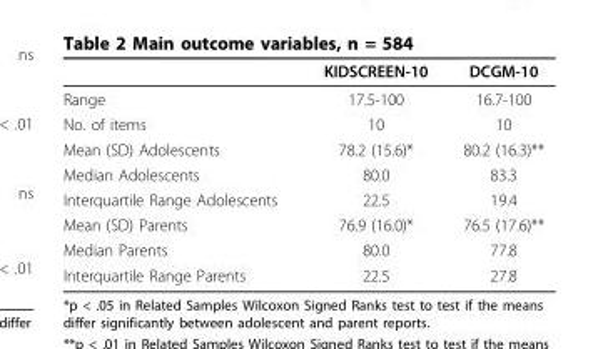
<table><thead><tr><td></td><td>KIDSCREEN-10</td><td>DCGM-10</td></tr></thead><tbody><tr><td>Range</td><td>17.5-100</td><td>16.7-100</td></tr><tr><td>No. of items</td><td>10</td><td>10</td></tr><tr><td>Mean (SD) Adolescents</td><td>78.2 (15.6)*</td><td>80.2 (16.3)**</td></tr><tr><td>Median Adolescents</td><td>80.0</td><td>83.3</td></tr><tr><td>Interquartile Range Adolescents</td><td>22.5</td><td>19.4</td></tr><tr><td>Mean (SD) Parents</td><td>76.9 (16.0)*</td><td>76.5 (17.6)**</td></tr><tr><td>Median Parents</td><td>80.0</td><td>77.8</td></tr><tr><td>Interquartile Range Parents</td><td>22.5</td><td>27.8</td></tr></tbody></table>